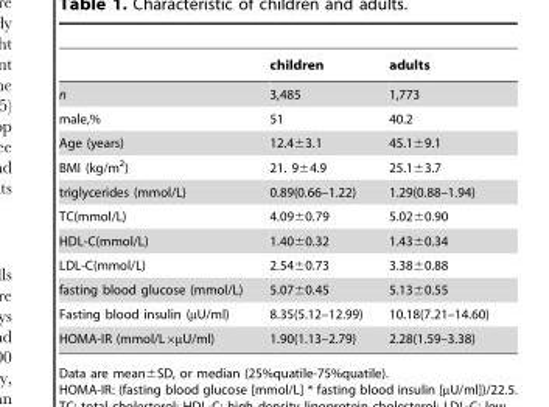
<table><thead><tr><td></td><td>children</td><td>adults</td></tr></thead><tbody><tr><td>n</td><td>3,485</td><td>1,773</td></tr><tr><td>male,%</td><td>51</td><td>40.2</td></tr><tr><td>Age (years)</td><td>12.4±3.1</td><td>45.1±9.1</td></tr><tr><td>BMI (kg/m<sup>2</sup>)</td><td>21. 9±4.9</td><td>25.1±3.7</td></tr><tr><td>triglycerides (mmol/L)</td><td>0.89(0.66–1.22)</td><td>1.29(0.88–1.94)</td></tr><tr><td>TC(mmol/L)</td><td>4.09±0.79</td><td>5.02±0.90</td></tr><tr><td>HDL-C(mmol/L)</td><td>1.40±0.32</td><td>1.43±0.34</td></tr><tr><td>LDL-C(mmol/L)</td><td>2.54±0.73</td><td>3.38±0.88</td></tr><tr><td>fasting blood glucose (mmol/L)</td><td>5.07±0.45</td><td>5.13±0.55</td></tr><tr><td>Fasting blood insulin (µU/ml)</td><td>8.35(5.12–12.99)</td><td>10.18(7.21–14.60)</td></tr><tr><td>HOMA-IR (mmol/L×µU/ml)</td><td>1.90(1.13–2.79)</td><td>2.28(1.59–3.38)</td></tr></tbody></table>